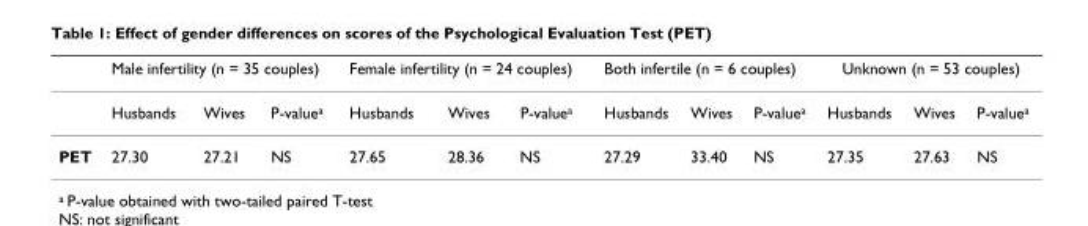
<table><thead><tr><td rowspan="2"></td><td colspan="3">Male infertility (n = 35 couples)</td><td colspan="3">Female infertility (n = 24 couples)</td><td colspan="3">Both infertile (n = 6 couples)</td><td colspan="3">Unknown (n = 53 couples)</td></tr><tr><td>Husbands</td><td>Wives</td><td>P-value<sup>a</sup></td><td>Husbands</td><td>Wives</td><td>P-value<sup>a</sup></td><td>Husbands</td><td>Wives</td><td>P-value<sup>a</sup></td><td>Husbands</td><td>Wives</td><td>P-value<sup>a</sup></td></tr></thead><tbody><tr><td>PET</td><td>27.30</td><td>27.21</td><td>NS</td><td>27.65</td><td>28.36</td><td>NS</td><td>27.29</td><td>33.40</td><td>NS</td><td>27.35</td><td>27.63</td><td>NS</td></tr></tbody></table>